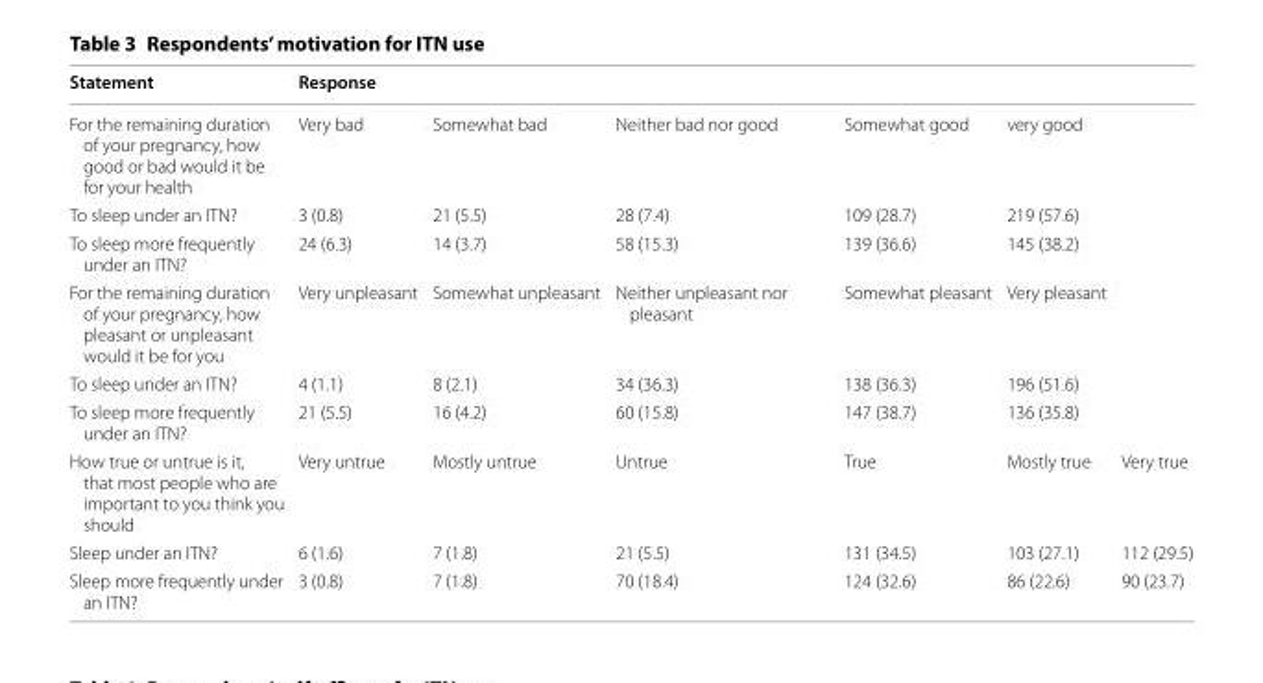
<table><thead><tr><td rowspan="2">Statement For the remaining duration of your pregnancy, how good or bad would it be for your health</td><td colspan="5">Response</td><td rowspan="2"></td></tr><tr><td>Very bad</td><td>Somewhat bad</td><td>Neither bad nor good</td><td>Somewhat good</td><td>very good</td></tr></thead><tbody><tr><td>To sleep under an ITN?</td><td>3 (0.8)</td><td>21 (5.5)</td><td>28 (7.4)</td><td>109 (28.7)</td><td>219 (57.6)</td><td></td></tr><tr><td>To sleep more frequently under an ITN?</td><td>24 (6.3)</td><td>14 (3.7)</td><td>58 (15.3)</td><td>139 (36.6)</td><td>145 (38.2)</td><td></td></tr><tr><td>For the remaining duration of your pregnancy, how pleasant or unpleasant would it be for you</td><td>Very unpleasant</td><td>Somewhat unpleasant</td><td>Neither unpleasant nor pleasant</td><td>Somewhat pleasant</td><td>Very pleasant</td><td></td></tr><tr><td>To sleep under an ITN?</td><td>4 (1.1)</td><td>8 (2.1)</td><td>34 (36.3)</td><td>138 (36.3)</td><td>196 (51.6)</td><td></td></tr><tr><td>To sleep more frequently under an ITN?</td><td>21 (5.5)</td><td>16 (4.2)</td><td>60 (15.8)</td><td>147 (38.7)</td><td>136 (35.8)</td><td></td></tr><tr><td>How true or untrue is it, that most people who are important to you think you should</td><td>Very untrue</td><td>Mostly untrue</td><td>Untrue</td><td>True</td><td>Mostly true</td><td>Very true</td></tr><tr><td>Sleep under an ITN?</td><td>6 (1.6)</td><td>7 (1.8)</td><td>21 (5.5)</td><td>131 (34.5)</td><td>103 (27.1)</td><td>112 (29.5)</td></tr><tr><td>Sleep more frequently under an ITN?</td><td>3 (0.8)</td><td>7 (1.8)</td><td>70 (18.4)</td><td>124 (32.6)</td><td>86 (22.6)</td><td>90 (23.7)</td></tr></tbody></table>